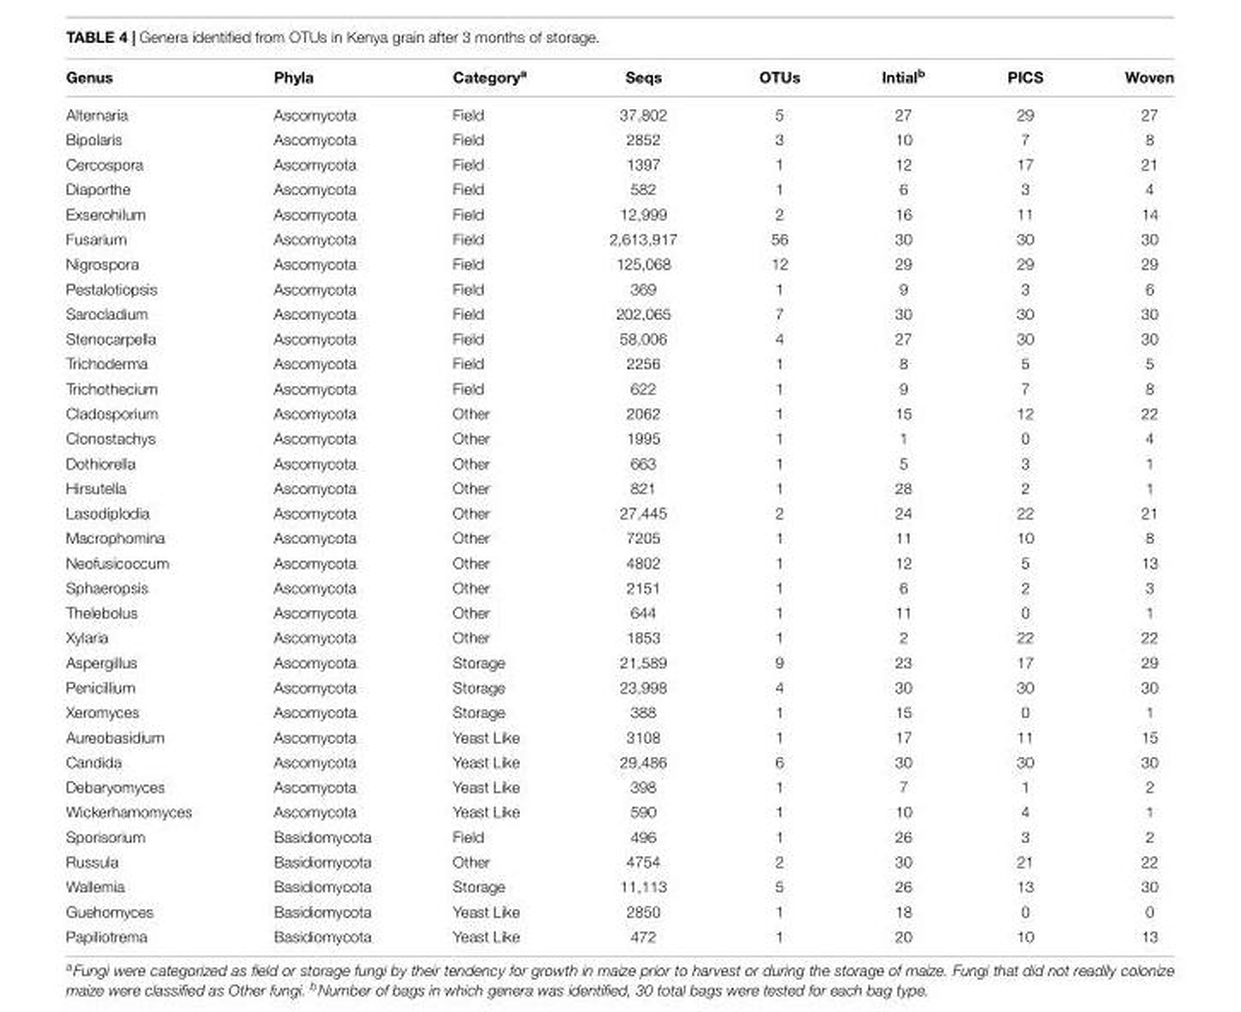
<table><thead><tr><td>Genus</td><td>Phyla</td><td>Category<sup>a</sup></td><td>Seqs</td><td>OTUs</td><td>Intial<sup>b</sup></td><td>PICS</td><td>Woven</td></tr></thead><tbody><tr><td>Alternaria</td><td>Ascomycota</td><td>Field</td><td>37,802</td><td>5</td><td>27</td><td>29</td><td>27</td></tr><tr><td>Bipolaris</td><td>Ascomycota</td><td>Field</td><td>2852</td><td>3</td><td>10</td><td>7</td><td>8</td></tr><tr><td>Cercospora</td><td>Ascomycota</td><td>Field</td><td>1397</td><td>1</td><td>12</td><td>17</td><td>21</td></tr><tr><td>Diaporthe</td><td>Ascomycota</td><td>Field</td><td>582</td><td>1</td><td>6</td><td>3</td><td>4</td></tr><tr><td>Exserohilum</td><td>Ascomycota</td><td>Field</td><td>12,999</td><td>2</td><td>16</td><td>11</td><td>14</td></tr><tr><td>Fusarium</td><td>Ascomycota</td><td>Field</td><td>2,613,917</td><td>56</td><td>30</td><td>30</td><td>30</td></tr><tr><td>Nigrospora</td><td>Ascomycota</td><td>Field</td><td>125,068</td><td>12</td><td>29</td><td>29</td><td>29</td></tr><tr><td>Pestalotiopsis</td><td>Ascomycota</td><td>Field</td><td>369</td><td>1</td><td>9</td><td>3</td><td>6</td></tr><tr><td>Sarocladium</td><td>Ascomycota</td><td>Field</td><td>202,065</td><td>7</td><td>30</td><td>30</td><td>30</td></tr><tr><td>Stenocarpella</td><td>Ascomycota</td><td>Field</td><td>58,006</td><td>4</td><td>27</td><td>30</td><td>30</td></tr><tr><td>Trichoderma</td><td>Ascomycota</td><td>Field</td><td>2256</td><td>1</td><td>8</td><td>5</td><td>5</td></tr><tr><td>Trichothecium</td><td>Ascomycota</td><td>Field</td><td>622</td><td>1</td><td>9</td><td>7</td><td>8</td></tr><tr><td>Cladosporium</td><td>Ascomycota</td><td>Other</td><td>2062</td><td>1</td><td>15</td><td>12</td><td>22</td></tr><tr><td>Clonostachys</td><td>Ascomycota</td><td>Other</td><td>1995</td><td>1</td><td>1</td><td>0</td><td>4</td></tr><tr><td>Dothiorella</td><td>Ascomycota</td><td>Other</td><td>663</td><td>1</td><td>5</td><td>3</td><td>1</td></tr><tr><td>Hirsutella</td><td>Ascomycota</td><td>Other</td><td>821</td><td>1</td><td>28</td><td>2</td><td>1</td></tr><tr><td>Lasodiplodia</td><td>Ascomycota</td><td>Other</td><td>27,445</td><td>2</td><td>24</td><td>22</td><td>21</td></tr><tr><td>Macrophomina</td><td>Ascomycota</td><td>Other</td><td>7205</td><td>1</td><td>11</td><td>10</td><td>8</td></tr><tr><td>Neofusicoccum</td><td>Ascomycota</td><td>Other</td><td>4802</td><td>1</td><td>12</td><td>5</td><td>13</td></tr><tr><td>Sphaeropsis</td><td>Ascomycota</td><td>Other</td><td>2151</td><td>1</td><td>6</td><td>2</td><td>3</td></tr><tr><td>Thelebolus</td><td>Ascomycota</td><td>Other</td><td>644</td><td>1</td><td>11</td><td>0</td><td>1</td></tr><tr><td>Xylaria</td><td>Ascomycota</td><td>Other</td><td>1853</td><td>1</td><td>2</td><td>22</td><td>22</td></tr><tr><td>Aspergillus</td><td>Ascomycota</td><td>Storage</td><td>21,589</td><td>9</td><td>23</td><td>17</td><td>29</td></tr><tr><td>Penicillium</td><td>Ascomycota</td><td>Storage</td><td>23,998</td><td>4</td><td>30</td><td>30</td><td>30</td></tr><tr><td>Xeromyces</td><td>Ascomycota</td><td>Storage</td><td>388</td><td>1</td><td>15</td><td>0</td><td>1</td></tr><tr><td>Aureobasidium</td><td>Ascomycota</td><td>Yeast Like</td><td>3108</td><td>1</td><td>17</td><td>11</td><td>15</td></tr><tr><td>Candida</td><td>Ascomycota</td><td>Yeast Like</td><td>29,486</td><td>6</td><td>30</td><td>30</td><td>30</td></tr><tr><td>Debaryomyces</td><td>Ascomycota</td><td>Yeast Like</td><td>398</td><td>1</td><td>7</td><td>1</td><td>2</td></tr><tr><td>Wickerhamomyces</td><td>Ascomycota</td><td>Yeast Like</td><td>590</td><td>1</td><td>10</td><td>4</td><td>1</td></tr><tr><td>Sporisorium</td><td>Basidiomycota</td><td>Field</td><td>496</td><td>1</td><td>26</td><td>3</td><td>2</td></tr><tr><td>Russula</td><td>Basidiomycota</td><td>Other</td><td>4754</td><td>2</td><td>30</td><td>21</td><td>22</td></tr><tr><td>Wallemia</td><td>Basidiomycota</td><td>Storage</td><td>11,113</td><td>5</td><td>26</td><td>13</td><td>30</td></tr><tr><td>Guehomyces</td><td>Basidiomycota</td><td>Yeast Like</td><td>2850</td><td>1</td><td>18</td><td>0</td><td>0</td></tr><tr><td>Papiliotrema</td><td>Basidiomycota</td><td>Yeast Like</td><td>472</td><td>1</td><td>20</td><td>10</td><td>13</td></tr></tbody></table>